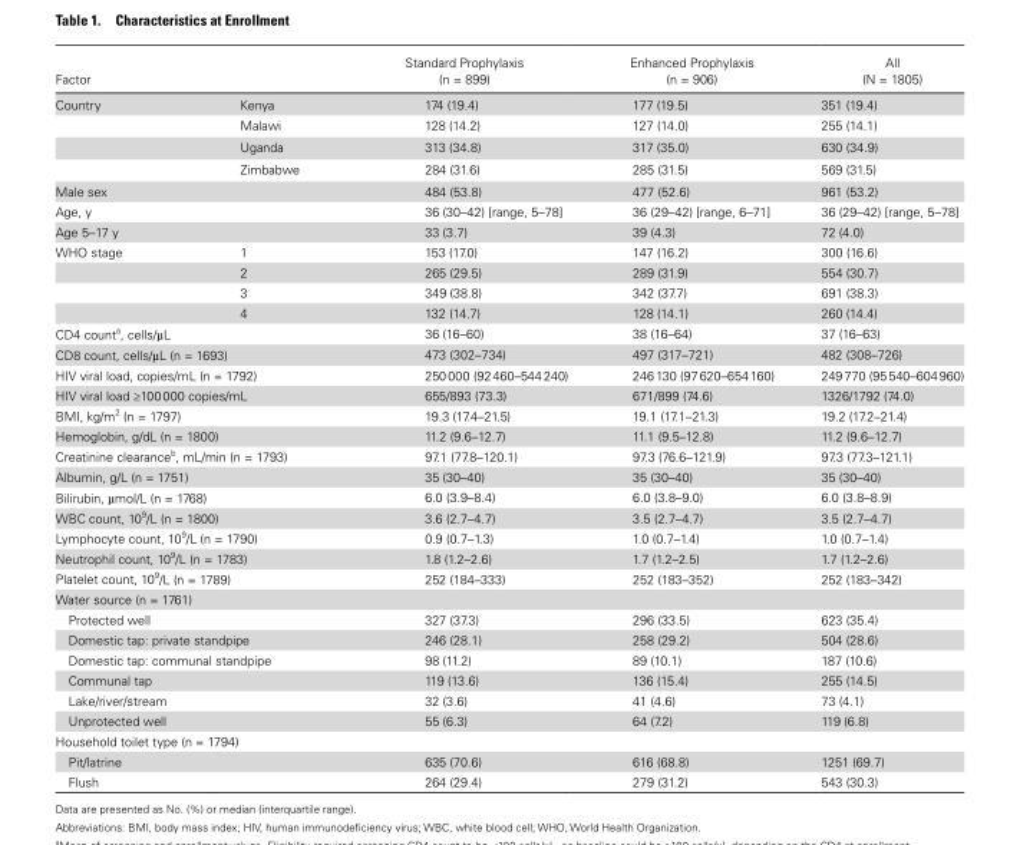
<table><thead><tr><td colspan="2">Factor</td><td rowspan="2">Standard Prophylaxis (n = 899) 174 (19.4)</td><td rowspan="2">Enhanced Prophylaxis (n = 906) 177 (19.5)</td><td rowspan="2">All (N = 1805) 351 (19.4)</td></tr><tr><td>Country</td><td>Kenya</td></tr></thead><tbody><tr><td></td><td>Malawi</td><td>128 (14.2)</td><td>127 (14.0)</td><td>255 (14.1)</td></tr><tr><td></td><td>Uganda</td><td>313 (34.8)</td><td>317 (35.0)</td><td>630 (34.9)</td></tr><tr><td></td><td>Zimbabwe</td><td>284 (31.6)</td><td>285 (31.5)</td><td>569 (31.5)</td></tr><tr><td>Male sex</td><td></td><td>484 (53.8)</td><td>477 (52.6)</td><td>961 (53.2)</td></tr><tr><td>Age, y</td><td></td><td>36 (30–42) [range, 5–78]</td><td>36 (29–42) [range, 6–71]</td><td>36 (29–42) [range, 5–78]</td></tr><tr><td>Age 5–17 y</td><td></td><td>33 (3.7)</td><td>39 (4.3)</td><td>72 (4.0)</td></tr><tr><td rowspan="4">WHO stage</td><td>1</td><td>153 (17.0)</td><td>147 (16.2)</td><td>300 (16.6)</td></tr><tr><td>2</td><td>265 (29.5)</td><td>289 (31.9)</td><td>554 (30.7)</td></tr><tr><td>3</td><td>349 (38.8)</td><td>342 (37.7)</td><td>691 (38.3)</td></tr><tr><td>4</td><td>132 (14.7)</td><td>128 (14.1)</td><td>260 (14.4)</td></tr><tr><td colspan="2">CD4 count<sup>a</sup>, cells/µL</td><td>36 (16–60)</td><td>38 (16–64)</td><td>37 (16–63)</td></tr><tr><td colspan="2">CD8 count, cells/µL (n = 1693)</td><td>473 (302–734)</td><td>497 (317–721)</td><td>482 (308–726)</td></tr><tr><td colspan="2">HIV viral load, copies/mL (n = 1792)</td><td>250 000 (92 460–544 240)</td><td>246 130 (97 620–654 160)</td><td>249 770 (95 540–604 960)</td></tr><tr><td colspan="2">HIV viral load ≥100 000 copies/mL</td><td>655/893 (73.3)</td><td>671/899 (74.6)</td><td>1326/1792 (74.0)</td></tr><tr><td colspan="2">BMI, kg/m<sup>2</sup> (n = 1797)</td><td>19.3 (17.4–21.5)</td><td>19.1 (17.1–21.3)</td><td>19.2 (17.2–21.4)</td></tr><tr><td colspan="2">Hemoglobin, g/dL (n = 1800)</td><td>11.2 (9.6–12.7)</td><td>11.1 (9.5–12.8)</td><td>11.2 (9.6–12.7)</td></tr><tr><td colspan="2">Creatinine clearance<sup>b</sup>, mL/min (n = 1793)</td><td>97.1 (77.8–120.1)</td><td>97.3 (76.6–121.9)</td><td>97.3 (77.3–121.1)</td></tr><tr><td colspan="2">Albumin, g/L (n = 1751)</td><td>35 (30–40)</td><td>35 (30–40)</td><td>35 (30–40)</td></tr><tr><td colspan="2">Bilirubin, µmol/L (n = 1768)</td><td>6.0 (3.9–8.4)</td><td>6.0 (3.8–9.0)</td><td>6.0 (3.8–8.9)</td></tr><tr><td colspan="2">WBC count, 10<sup>9</sup>/L (n = 1800)</td><td>3.6 (2.7–4.7)</td><td>3.5 (2.7–4.7)</td><td>3.5 (2.7–4.7)</td></tr><tr><td colspan="2">Lymphocyte count, 10<sup>9</sup>/L (n = 1790)</td><td>0.9 (0.7–1.3)</td><td>1.0 (0.7–1.4)</td><td>1.0 (0.7–1.4)</td></tr><tr><td colspan="2">Neutrophil count, 10<sup>9</sup>/L (n = 1783)</td><td>1.8 (1.2–2.6)</td><td>1.7 (1.2–2.5)</td><td>1.7 (1.2–2.6)</td></tr><tr><td colspan="2">Platelet count, 10<sup>9</sup>/L (n = 1789)</td><td>252 (184–333)</td><td>252 (183–352)</td><td>252 (183–342)</td></tr><tr><td colspan="5">Water source (n = 1761)</td></tr><tr><td colspan="2">Protected well</td><td>327 (37.3)</td><td>296 (33.5)</td><td>623 (35.4)</td></tr><tr><td colspan="2">Domestic tap: private standpipe</td><td>246 (28.1)</td><td>258 (29.2)</td><td>504 (28.6)</td></tr><tr><td colspan="2">Domestic tap: communal standpipe</td><td>98 (11.2)</td><td>89 (10.1)</td><td>187 (10.6)</td></tr><tr><td colspan="2">Communal tap</td><td>119 (13.6)</td><td>136 (15.4)</td><td>255 (14.5)</td></tr><tr><td colspan="2">Lake/river/stream</td><td>32 (3.6)</td><td>41 (4.6)</td><td>73 (4.1)</td></tr><tr><td colspan="2">Unprotected well</td><td>55 (6.3)</td><td>64 (7.2)</td><td>119 (6.8)</td></tr><tr><td colspan="5">Household toilet type (n = 1794)</td></tr><tr><td colspan="2">Pit/latrine</td><td>635 (70.6)</td><td>616 (68.8)</td><td>1251 (69.7)</td></tr><tr><td colspan="2">Flush</td><td>264 (29.4)</td><td>279 (31.2)</td><td>543 (30.3)</td></tr></tbody></table>